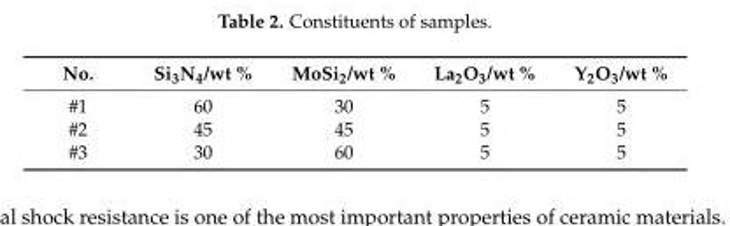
<table><thead><tr><td>No.</td><td>Si<sub>3</sub>N<sub>4</sub>/wt %</td><td>MoSi<sub>2</sub>/wt %</td><td>La<sub>2</sub>O<sub>3</sub>/wt %</td><td>Y<sub>2</sub>O<sub>3</sub>/wt %</td></tr></thead><tbody><tr><td>#1</td><td>60</td><td>30</td><td>5</td><td>5</td></tr><tr><td>#2</td><td>45</td><td>45</td><td>5</td><td>5</td></tr><tr><td>#3</td><td>30</td><td>60</td><td>5</td><td>5</td></tr></tbody></table>